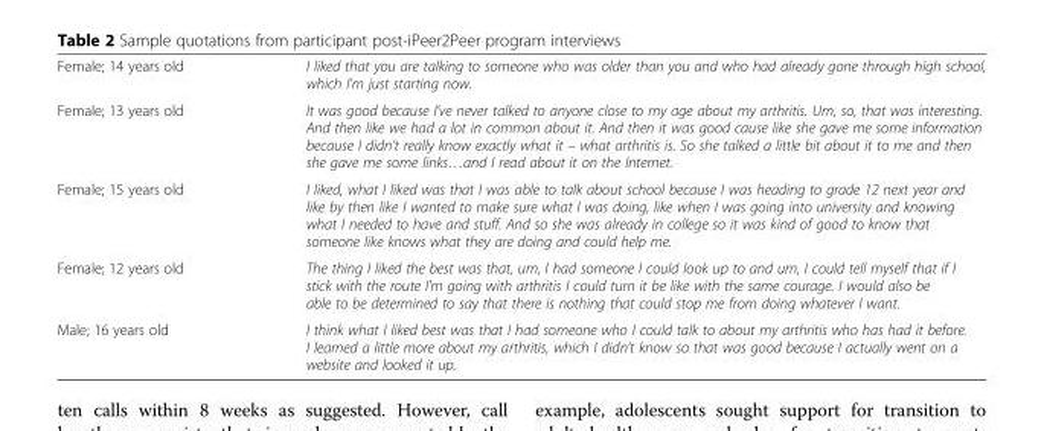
<table><tbody><tr><td>Female; 14 years old</td><td>I liked that you are talking to someone who was older than you and who had already gone through high school, which I’m just starting now.</td></tr><tr><td>Female; 13 years old</td><td>It was good because I’ve never talked to anyone close to my age about my arthritis. Um, so, that was interesting. And then like we had a lot in common about it. And then it was good cause like she gave me some information because I didn’t really know exactly what it – what arthritis is. So she talked a little bit about it to me and then she gave me some links…and I read about it on the Internet.</td></tr><tr><td>Female; 15 years old</td><td>I liked, what I liked was that I was able to talk about school because I was heading to grade 12 next year and like by then like I wanted to make sure what I was doing, like when I was going into university and knowing what I needed to have and stuff. And so she was already in college so it was kind of good to know that someone like knows what they are doing and could help me.</td></tr><tr><td>Female; 12 years old</td><td>The thing I liked the best was that, um, I had someone I could look up to and um, I could tell myself that if I stick with the route I&#x27;m going with arthritis I could turn it be like with the same courage. I would also be able to be determined to say that there is nothing that could stop me from doing whatever I want.</td></tr><tr><td>Male; 16 years old</td><td>I think what I liked best was that I had someone who I could talk to about my arthritis who has had it before. I learned a little more about my arthritis, which I didn’t know so that was good because I actually went on a website and looked it up.</td></tr></tbody></table>